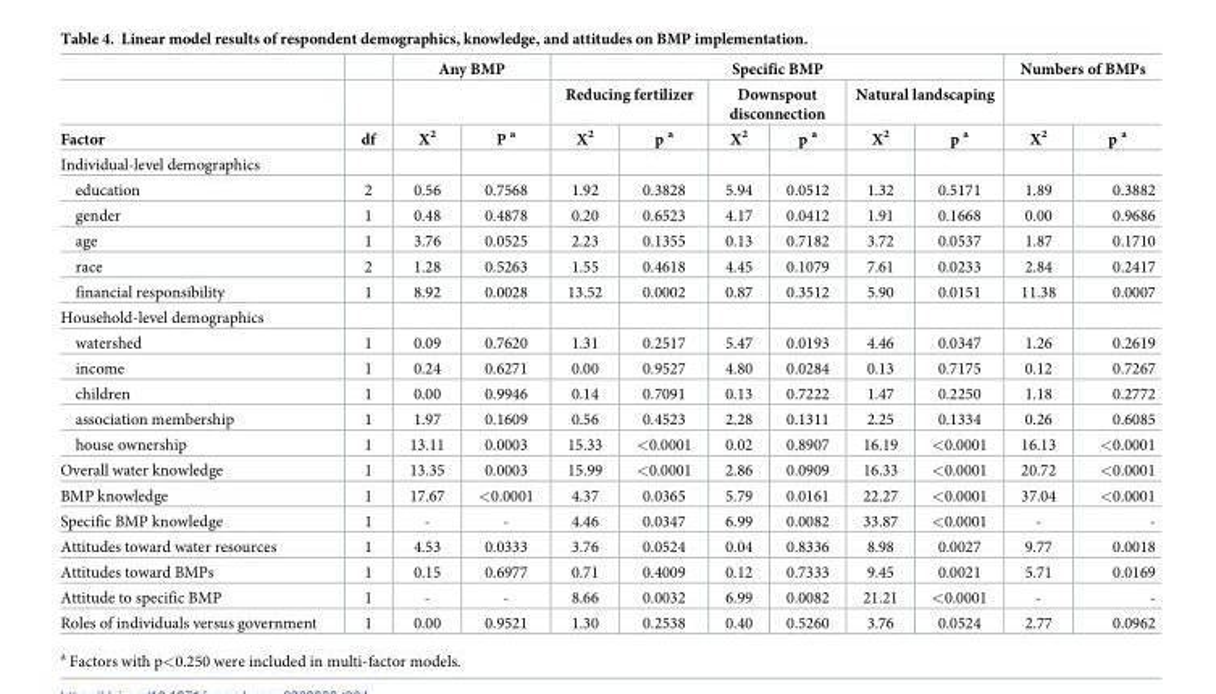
<table><thead><tr><td rowspan="3">Factor</td><td rowspan="3">df</td><td colspan="2">Any BMP</td><td colspan="6">Specific BMP</td><td colspan="2">Numbers of BMPs</td></tr><tr><td rowspan="2">X<sup>2</sup></td><td rowspan="2">P a</td><td colspan="2">Reducing fertilizer</td><td colspan="2">Downspout disconnection</td><td colspan="2">Natural landscaping</td><td rowspan="2">X<sup>2</sup></td><td rowspan="2">p <sup>a</sup></td></tr><tr><td>X<sup>2</sup></td><td>p <sup>a</sup></td><td>X<sup>2</sup></td><td>p <sup>a</sup></td><td>X<sup>2</sup></td><td>p <sup>a</sup></td></tr></thead><tbody><tr><td colspan="12">Individual-level demographics</td></tr><tr><td>education</td><td>2</td><td>0.56</td><td>0.7568</td><td>1.92</td><td>0.3828</td><td>5.94</td><td>0.0512</td><td>1.32</td><td>0.5171</td><td>1.89</td><td>0.3882</td></tr><tr><td>gender</td><td>1</td><td>0.48</td><td>0.4878</td><td>0.20</td><td>0.6523</td><td>4.17</td><td>0.0412</td><td>1.91</td><td>0.1668</td><td>0.00</td><td>0.9686</td></tr><tr><td>age</td><td>1</td><td>3.76</td><td>0.0525</td><td>2.23</td><td>0.1355</td><td>0.13</td><td>0.7182</td><td>3.72</td><td>0.0537</td><td>1.87</td><td>0.1710</td></tr><tr><td>race</td><td>2</td><td>1.28</td><td>0.5263</td><td>1.55</td><td>0.4618</td><td>4.45</td><td>0.1079</td><td>7.61</td><td>0.0233</td><td>2.84</td><td>0.2417</td></tr><tr><td>financial responsibility</td><td>1</td><td>8.92</td><td>0.0028</td><td>13.52</td><td>0.0002</td><td>0.87</td><td>0.3512</td><td>5.90</td><td>0.0151</td><td>11.38</td><td>0.0007</td></tr><tr><td colspan="12">Household-level demographics</td></tr><tr><td>watershed</td><td>1</td><td>0.09</td><td>0.7620</td><td>1.31</td><td>0.2517</td><td>5.47</td><td>0.0193</td><td>4.46</td><td>0.0347</td><td>1.26</td><td>0.2619</td></tr><tr><td>income</td><td>1</td><td>0.24</td><td>0.6271</td><td>0.00</td><td>0.9527</td><td>4.80</td><td>0.0284</td><td>0.13</td><td>0.7175</td><td>0.12</td><td>0.7267</td></tr><tr><td>children</td><td>1</td><td>0.00</td><td>0.9946</td><td>0.14</td><td>0.7091</td><td>0.13</td><td>0.7222</td><td>1.47</td><td>0.2250</td><td>1.18</td><td>0.2772</td></tr><tr><td>association membership</td><td>1</td><td>1.97</td><td>0.1609</td><td>0.56</td><td>0.4523</td><td>2.28</td><td>0.1311</td><td>2.25</td><td>0.1334</td><td>0.26</td><td>0.6085</td></tr><tr><td>house ownership</td><td>1</td><td>13.11</td><td>0.0003</td><td>15.33</td><td>&lt;0.0001</td><td>0.02</td><td>0.8907</td><td>16.19</td><td>&lt;0.0001</td><td>16.13</td><td>&lt;0.0001</td></tr><tr><td>Overall water knowledge</td><td>1</td><td>13.35</td><td>0.0003</td><td>15.99</td><td>&lt;0.0001</td><td>2.86</td><td>0.0909</td><td>16.33</td><td>&lt;0.0001</td><td>20.72</td><td>&lt;0.0001</td></tr><tr><td>BMP knowledge</td><td>1</td><td>17.67</td><td>&lt;0.0001</td><td>4.37</td><td>0.0365</td><td>5.79</td><td>0.0161</td><td>22.27</td><td>&lt;0.0001</td><td>37.04</td><td>&lt;0.0001</td></tr><tr><td>Specific BMP knowledge</td><td>1</td><td>-</td><td>-</td><td>4.46</td><td>0.0347</td><td>6.99</td><td>0.0082</td><td>33.87</td><td>&lt;0.0001</td><td>-</td><td>-</td></tr><tr><td>Attitudes toward water resources</td><td>1</td><td>4.53</td><td>0.0333</td><td>3.76</td><td>0.0524</td><td>0.04</td><td>0.8336</td><td>8.98</td><td>0.0027</td><td>9.77</td><td>0.0018</td></tr><tr><td>Attitudes toward BMPs</td><td>1</td><td>0.15</td><td>0.6977</td><td>0.71</td><td>0.4009</td><td>0.12</td><td>0.7333</td><td>9.45</td><td>0.0021</td><td>5.71</td><td>0.0169</td></tr><tr><td>Attitude to specific BMP</td><td>1</td><td>-</td><td>-</td><td>8.66</td><td>0.0032</td><td>6.99</td><td>0.0082</td><td>21.21</td><td>&lt;0.0001</td><td>-</td><td>-</td></tr><tr><td>Roles of individuals versus government</td><td>1</td><td>0.00</td><td>0.9521</td><td>1.30</td><td>0.2538</td><td>0.40</td><td>0.5260</td><td>3.76</td><td>0.0524</td><td>2.77</td><td>0.0962</td></tr></tbody></table>